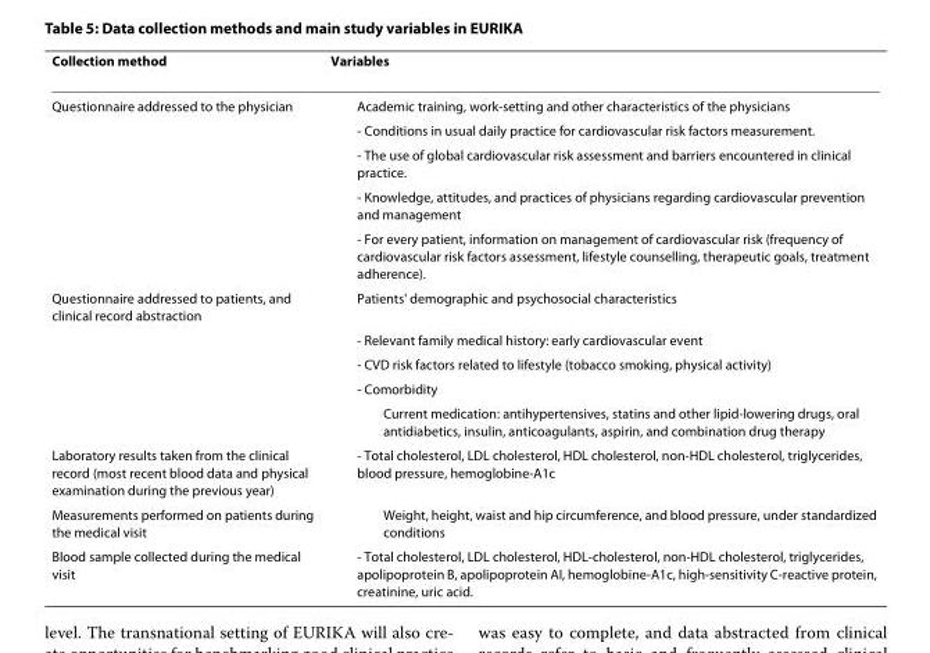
<table><thead><tr><td>Collection method</td><td>Variables</td></tr></thead><tbody><tr><td rowspan="5">Questionnaire addressed to the physician</td><td>Academic training, work-setting and other characteristics of the physicians</td></tr><tr><td>- Conditions in usual daily practice for cardiovascular risk factors measurement.</td></tr><tr><td>- The use of global cardiovascular risk assessment and barriers encountered in clinical practice.</td></tr><tr><td>- Knowledge, attitudes, and practices of physicians regarding cardiovascular prevention and management</td></tr><tr><td>- For every patient, information on management of cardiovascular risk (frequency of cardiovascular risk factors assessment, lifestyle counselling, therapeutic goals, treatment adherence).</td></tr><tr><td rowspan="5">Questionnaire addressed to patients, and clinical record abstraction</td><td>Patients&#x27; demographic and psychosocial characteristics</td></tr><tr><td>- Relevant family medical history: early cardiovascular event</td></tr><tr><td>- CVD risk factors related to lifestyle (tobacco smoking, physical activity)</td></tr><tr><td>- Comorbidity</td></tr><tr><td>Current medication: antihypertensives, statins and other lipid-lowering drugs, oral antidiabetics, insulin, anticoagulants, aspirin, and combination drug therapy</td></tr><tr><td>Laboratory results taken from the clinical record (most recent blood data and physical examination during the previous year)</td><td>- Total cholesterol, LDL cholesterol, HDL cholesterol, non-HDL cholesterol, triglycerides, blood pressure, hemoglobine-A1c</td></tr><tr><td>Measurements performed on patients during the medical visit</td><td>Weight, height, waist and hip circumference, and blood pressure, under standardized conditions</td></tr><tr><td>Blood sample collected during the medical visit</td><td>- Total cholesterol, LDL cholesterol, HDL-cholesterol, non-HDL cholesterol, triglycerides, apolipoprotein B, apolipoprotein AI, hemoglobine-A1c, high-sensitivity C-reactive protein, creatinine, uric acid.</td></tr></tbody></table>